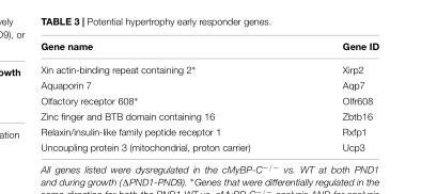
<table><thead><tr><td>Gene name</td><td>Gene ID</td></tr></thead><tbody><tr><td>Xin actin-binding repeat containing 2∗</td><td>Xirp2</td></tr><tr><td>Aquaporin 7</td><td>Aqp7</td></tr><tr><td>Olfactory receptor 608∗</td><td>Olfr608</td></tr><tr><td>Zinc finger and BTB domain containing 16</td><td>Zbtb16</td></tr><tr><td>Relaxin/insulin-like family peptide receptor 1</td><td>Rxfp1</td></tr><tr><td>Uncoupling protein 3 (mitochondrial, proton carrier)</td><td>Ucp3</td></tr></tbody></table>